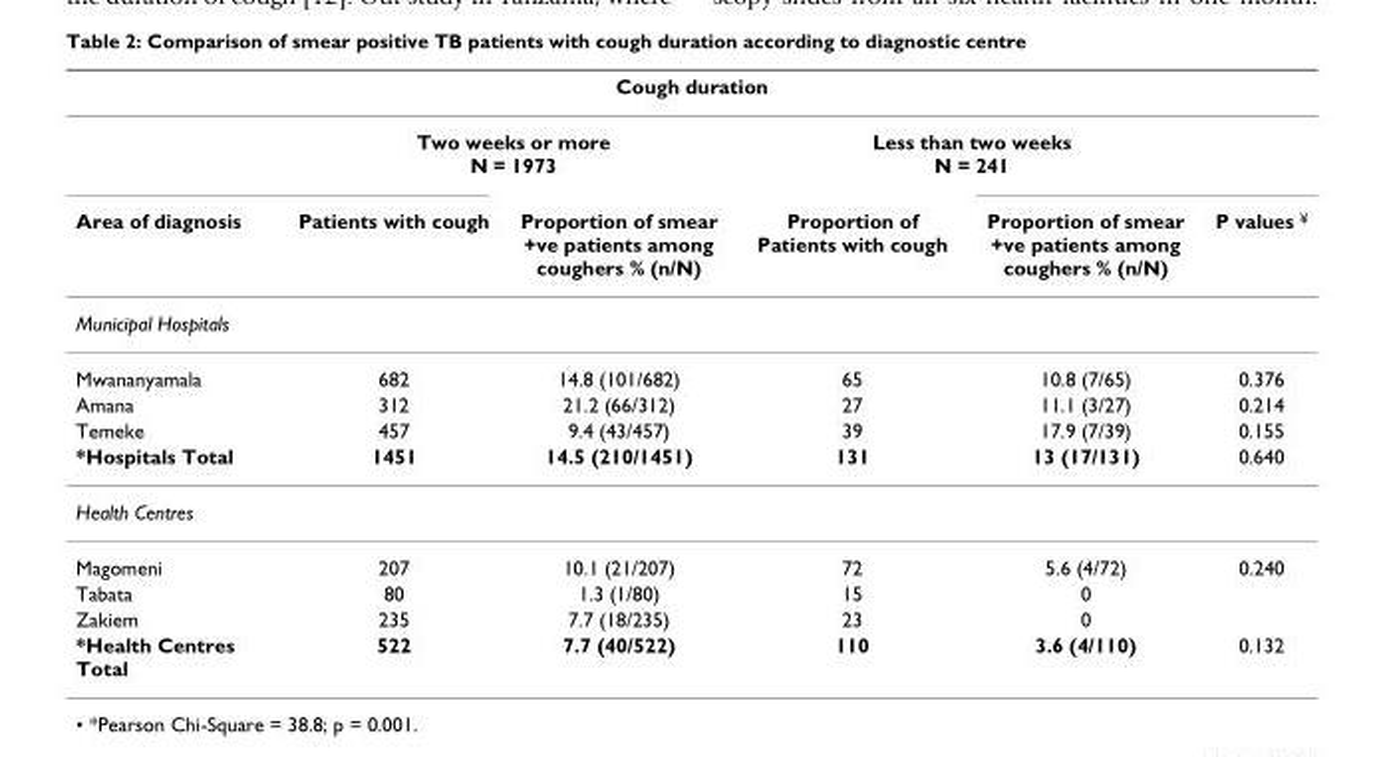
<table><thead><tr><td colspan="6">Cough duration</td></tr><tr><td rowspan="2">Area of diagnosis</td><td colspan="2">Two weeks or more N = 1973</td><td colspan="2">Less than two weeks N = 241</td><td rowspan="2">P values <sup>¥</sup></td></tr><tr><td>Patients with cough</td><td>Proportion of smear +ve patients among coughers % (n/N)</td><td>Proportion of Patients with cough</td><td>Proportion of smear +ve patients among coughers % (n/N)</td></tr></thead><tbody><tr><td colspan="6">Municipal Hospitals</td></tr><tr><td>Mwananyamala</td><td>682</td><td>14.8 (101/682)</td><td>65</td><td>10.8 (7/65)</td><td>0.376</td></tr><tr><td>Amana</td><td>312</td><td>21.2 (66/312)</td><td>27</td><td>11.1 (3/27)</td><td>0.214</td></tr><tr><td>Temeke</td><td>457</td><td>9.4 (43/457)</td><td>39</td><td>17.9 (7/39)</td><td>0.155</td></tr><tr><td>*Hospitals Total</td><td>1451</td><td>14.5 (210/1451)</td><td>131</td><td>13 (17/131)</td><td>0.640</td></tr><tr><td colspan="6">Health Centres</td></tr><tr><td>Magomeni</td><td>207</td><td>10.1 (21/207)</td><td>72</td><td>5.6 (4/72)</td><td>0.240</td></tr><tr><td>Tabata</td><td>80</td><td>1.3 (1/80)</td><td>15</td><td>0</td><td></td></tr><tr><td>Zakiem</td><td>235</td><td>7.7 (18/235)</td><td>23</td><td>0</td><td></td></tr><tr><td>*Health Centres Total</td><td>522</td><td>7.7 (40/522)</td><td>110</td><td>3.6 (4/110)</td><td>0.132</td></tr></tbody></table>